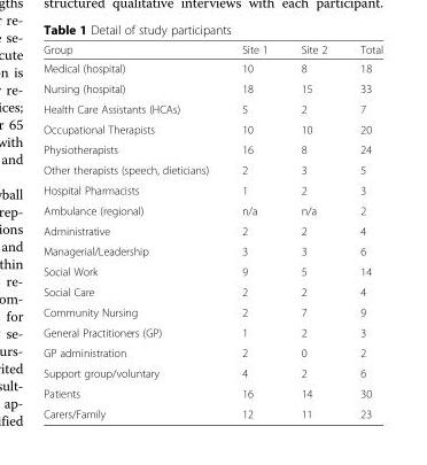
<table><thead><tr><td>Group</td><td>Site 1</td><td>Site 2</td><td>Total</td></tr></thead><tbody><tr><td>Medical (hospital)</td><td>10</td><td>8</td><td>18</td></tr><tr><td>Nursing (hospital)</td><td>18</td><td>15</td><td>33</td></tr><tr><td>Health Care Assistants (HCAs)</td><td>5</td><td>2</td><td>7</td></tr><tr><td>Occupational Therapists</td><td>10</td><td>10</td><td>20</td></tr><tr><td>Physiotherapists</td><td>16</td><td>8</td><td>24</td></tr><tr><td>Other therapists (speech, dieticians)</td><td>2</td><td>3</td><td>5</td></tr><tr><td>Hospital Pharmacists</td><td>1</td><td>2</td><td>3</td></tr><tr><td>Ambulance (regional)</td><td>n/a</td><td>n/a</td><td>2</td></tr><tr><td>Administrative</td><td>2</td><td>2</td><td>4</td></tr><tr><td>Managerial/Leadership</td><td>3</td><td>3</td><td>6</td></tr><tr><td>Social Work</td><td>9</td><td>5</td><td>14</td></tr><tr><td>Social Care</td><td>2</td><td>2</td><td>4</td></tr><tr><td>Community Nursing</td><td>2</td><td>7</td><td>9</td></tr><tr><td>General Practitioners (GP)</td><td>1</td><td>2</td><td>3</td></tr><tr><td>GP administration</td><td>2</td><td>0</td><td>2</td></tr><tr><td>Support group/voluntary</td><td>4</td><td>2</td><td>6</td></tr><tr><td>Patients</td><td>16</td><td>14</td><td>30</td></tr><tr><td>Carers/Family</td><td>12</td><td>11</td><td>23</td></tr></tbody></table>